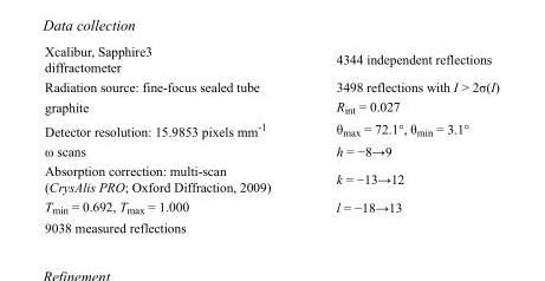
<table><tbody><tr><td>Xcalibur, Sapphire3 diffractometer</td><td>4344 independent reflections</td></tr><tr><td>Radiation source: fine-focus sealed tube</td><td>3498 reflections with I &gt; 2σ(I)</td></tr><tr><td>graphite</td><td>R<sub>int</sub> = 0.027</td></tr><tr><td>Detector resolution: 15.9853 pixels mm<sup>-1</sup></td><td>θ<sub>max</sub> = 72.1°, θ<sub>min</sub> = 3.1°</td></tr><tr><td>ω scans</td><td>h = −8→9</td></tr><tr><td>Absorption correction: multi-scan (CrysAlis PRO; Oxford Diffraction, 2009)</td><td>k = −13→12</td></tr><tr><td>T<sub>min</sub> = 0.692, T<sub>max</sub> = 1.000</td><td>l = −18→13</td></tr><tr><td>9038 measured reflections</td><td></td></tr></tbody></table>